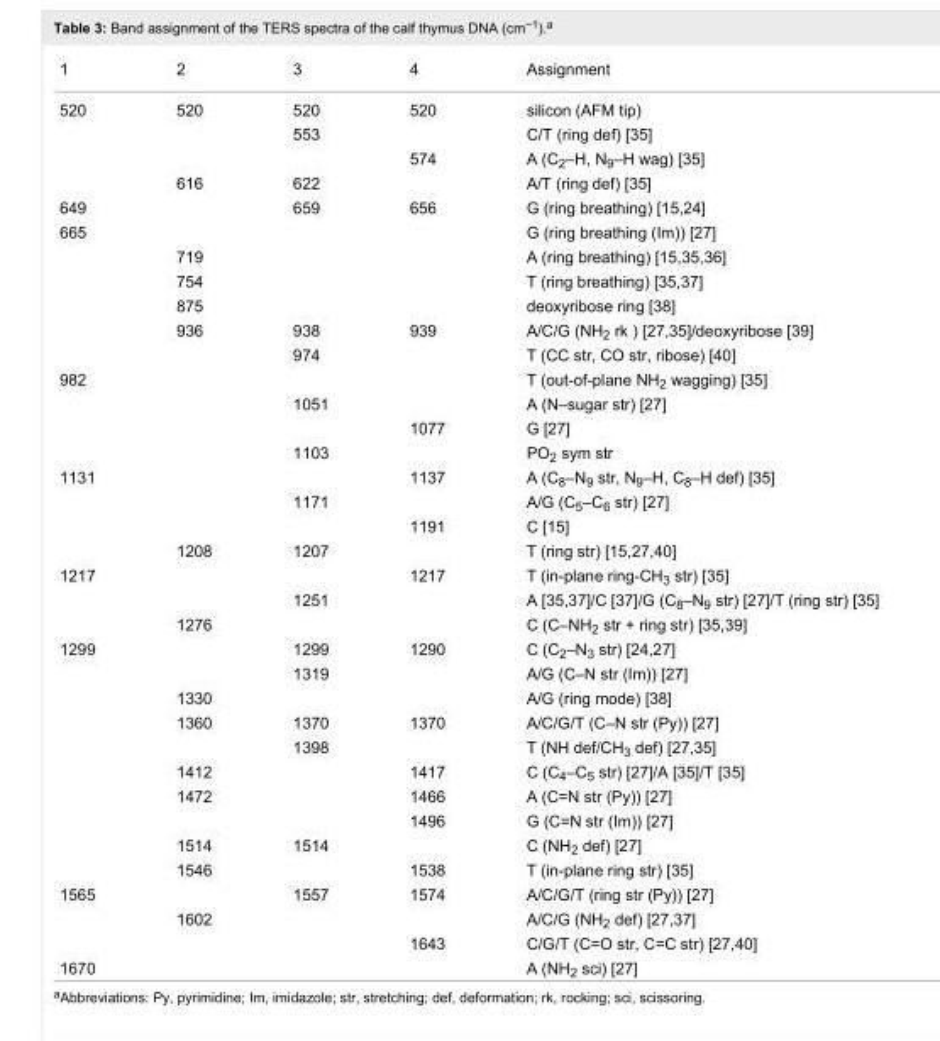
<table><tbody><tr><td>1</td><td>2</td><td>3</td><td>4</td><td>Assignment</td></tr><tr><td rowspan="4">520</td><td>520</td><td>520</td><td>520</td><td>silicon (AFM tip)</td></tr><tr><td></td><td>553</td><td></td><td>C/T (ring def) [35]</td></tr><tr><td></td><td></td><td>574</td><td>A (C<sub>2</sub>–H, N<sub>9</sub>–H wag) [35]</td></tr><tr><td>616</td><td>622</td><td></td><td>A/T (ring def) [35]</td></tr><tr><td>649</td><td></td><td>659</td><td>656</td><td>G (ring breathing) [15,24]</td></tr><tr><td rowspan="6">665</td><td></td><td></td><td></td><td>G (ring breathing (Im)) [27]</td></tr><tr><td>719</td><td></td><td></td><td>A (ring breathing) [15,35–36]</td></tr><tr><td>754</td><td></td><td></td><td>T (ring breathing) [35,37]</td></tr><tr><td>875</td><td></td><td></td><td>deoxyribose ring [38]</td></tr><tr><td>936</td><td>938</td><td>939</td><td>A/C/G (NH<sub>2</sub> rk ) [27,35]/deoxyribose [39]</td></tr><tr><td></td><td>974</td><td></td><td>T (CC str, CO str, ribose) [40]</td></tr><tr><td rowspan="4">982</td><td></td><td></td><td></td><td>T (out-of-plane NH<sub>2</sub> wagging) [35]</td></tr><tr><td></td><td>1051</td><td></td><td>A (N–sugar str) [27]</td></tr><tr><td></td><td></td><td>1077</td><td>G [27]</td></tr><tr><td></td><td>1103</td><td></td><td>PO<sub>2</sub> sym str</td></tr><tr><td rowspan="4">1131</td><td></td><td></td><td>1137</td><td>A (C<sub>8</sub>–N<sub>9</sub> str, N<sub>9</sub>–H, C<sub>8</sub>–H def) [35]</td></tr><tr><td></td><td>1171</td><td></td><td>A/G (C<sub>5</sub>–C<sub>6</sub> str) [27]</td></tr><tr><td></td><td></td><td>1191</td><td>C [15]</td></tr><tr><td>1208</td><td>1207</td><td></td><td>T (ring str) [15,27,40]</td></tr><tr><td rowspan="3">1217</td><td></td><td></td><td>1217</td><td>T (in-plane ring-CH<sub>3</sub> str) [35]</td></tr><tr><td></td><td>1251</td><td></td><td>A [35,37]/C [37]/G (C<sub>8</sub>–N<sub>9</sub> str) [27]/T (ring str) [35]</td></tr><tr><td>1276</td><td></td><td></td><td>C (C–NH<sub>2</sub> str + ring str) [35,39]</td></tr><tr><td rowspan="10">1299</td><td></td><td>1299</td><td>1290</td><td>C (C<sub>2</sub>–N<sub>3</sub> str) [24,27]</td></tr><tr><td></td><td>1319</td><td></td><td>A/G (C–N str (Im)) [27]</td></tr><tr><td>1330</td><td></td><td></td><td>A/G (ring mode) [38]</td></tr><tr><td>1360</td><td>1370</td><td>1370</td><td>A/C/G/T (C–N str (Py)) [27]</td></tr><tr><td></td><td>1398</td><td></td><td>T (NH def/CH<sub>3</sub> def) [27,35]</td></tr><tr><td>1412</td><td></td><td>1417</td><td>C (C<sub>4</sub>–C<sub>5</sub> str) [27]/A [35]/T [35]</td></tr><tr><td>1472</td><td></td><td>1466</td><td>A (C=N str (Py)) [27]</td></tr><tr><td></td><td></td><td>1496</td><td>G (C=N str (Im)) [27]</td></tr><tr><td>1514</td><td>1514</td><td></td><td>C (NH<sub>2</sub> def) [27]</td></tr><tr><td>1546</td><td></td><td>1538</td><td>T (in-plane ring str) [35]</td></tr><tr><td rowspan="3">1565</td><td></td><td>1557</td><td>1574</td><td>A/C/G/T (ring str (Py)) [27]</td></tr><tr><td>1602</td><td></td><td></td><td>A/C/G (NH<sub>2</sub> def) [27,37]</td></tr><tr><td></td><td></td><td>1643</td><td>C/G/T (C=O str, C=C str) [27,40]</td></tr><tr><td>1670</td><td></td><td></td><td></td><td>A (NH<sub>2</sub> sci) [27]</td></tr></tbody></table>